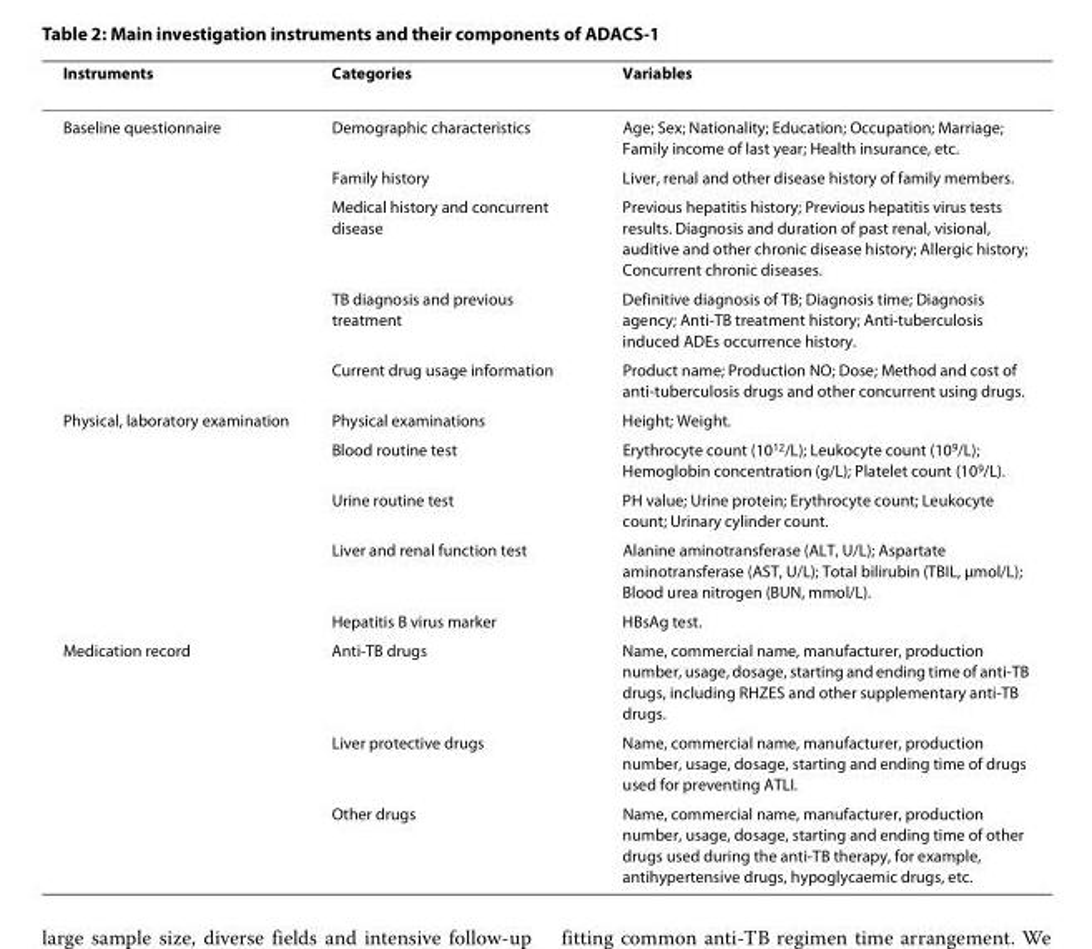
<table><thead><tr><td>Instruments</td><td>Categories</td><td>Variables</td></tr></thead><tbody><tr><td rowspan="5">Baseline questionnaire</td><td>Demographic characteristics</td><td>Age; Sex; Nationality; Education; Occupation; Marriage; Family income of last year; Health insurance, etc.</td></tr><tr><td>Family history</td><td>Liver, renal and other disease history of family members.</td></tr><tr><td>Medical history and concurrent disease</td><td>Previous hepatitis history; Previous hepatitis virus tests results. Diagnosis and duration of past renal, visional, auditive and other chronic disease history; Allergic history; Concurrent chronic diseases.</td></tr><tr><td>TB diagnosis and previous treatment</td><td>Definitive diagnosis of TB; Diagnosis time; Diagnosis agency; Anti-TB treatment history; Anti-tuberculosis induced ADEs occurrence history.</td></tr><tr><td>Current drug usage information</td><td>Product name; Production NO; Dose; Method and cost of anti-tuberculosis drugs and other concurrent using drugs.</td></tr><tr><td rowspan="5">Physical, laboratory examination</td><td>Physical examinations</td><td>Height; Weight.</td></tr><tr><td>Blood routine test</td><td>Erythrocyte count (10<sup>12</sup>/L); Leukocyte count (10<sup>9</sup>/L); Hemoglobin concentration (g/L); Platelet count (10<sup>9</sup>/L).</td></tr><tr><td>Urine routine test</td><td>PH value; Urine protein; Erythrocyte count; Leukocyte count; Urinary cylinder count.</td></tr><tr><td>Liver and renal function test</td><td>Alanine aminotransferase (ALT, U/L); Aspartate aminotransferase (AST, U/L); Total bilirubin (TBIL, μmol/L); Blood urea nitrogen (BUN, mmol/L).</td></tr><tr><td>Hepatitis B virus marker</td><td>HBsAg test.</td></tr><tr><td rowspan="3">Medication record</td><td>Anti-TB drugs</td><td>Name, commercial name, manufacturer, production number, usage, dosage, starting and ending time of anti-TB drugs, including RHZES and other supplementary anti-TB drugs.</td></tr><tr><td>Liver protective drugs</td><td>Name, commercial name, manufacturer, production number, usage, dosage, starting and ending time of drugs used for preventing ATLI.</td></tr><tr><td>Other drugs</td><td>Name, commercial name, manufacturer, production number, usage, dosage, starting and ending time of other drugs used during the anti-TB therapy, for example, antihypertensive drugs, hypoglycaemic drugs, etc.</td></tr></tbody></table>